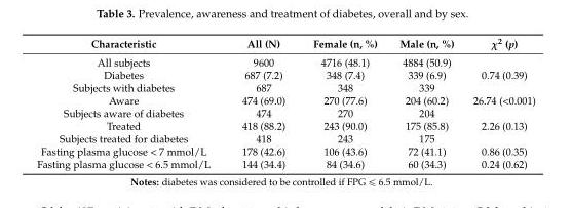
<table><thead><tr><td>Characteristic</td><td>All (N)</td><td>Female (n, %)</td><td>Male (n, %)</td><td>χ<sup>2</sup> (p)</td></tr></thead><tbody><tr><td>All subjects</td><td>9600</td><td>4716 (48.1)</td><td>4884 (50.9)</td><td></td></tr><tr><td>Diabetes</td><td>687 (7.2)</td><td>348 (7.4)</td><td>339 (6.9)</td><td>0.74 (0.39)</td></tr><tr><td>Subjects with diabetes</td><td>687</td><td>348</td><td>339</td><td></td></tr><tr><td>Aware</td><td>474 (69.0)</td><td>270 (77.6)</td><td>204 (60.2)</td><td>26.74 (&lt;0.001)</td></tr><tr><td>Subjects aware of diabetes</td><td>474</td><td>270</td><td>204</td><td></td></tr><tr><td>Treated</td><td>418 (88.2)</td><td>243 (90.0)</td><td>175 (85.8)</td><td>2.26 (0.13)</td></tr><tr><td>Subjects treated for diabetes</td><td>418</td><td>243</td><td>175</td><td></td></tr><tr><td>Fasting plasma glucose &lt; 7 mmol/L</td><td>178 (42.6)</td><td>106 (43.6)</td><td>72 (41.1)</td><td>0.86 (0.35)</td></tr><tr><td>Fasting plasma glucose &lt; 6.5 mmol/L</td><td>144 (34.4)</td><td>84 (34.6)</td><td>60 (34.3)</td><td>0.24 (0.62)</td></tr></tbody></table>